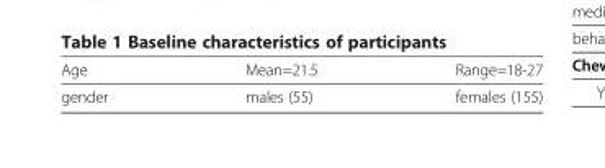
<table><thead><tr><td>Age</td><td>Mean=21.5</td><td>Range=18-27</td></tr></thead><tbody><tr><td>gender</td><td>males (55)</td><td>females (155)</td></tr></tbody></table>